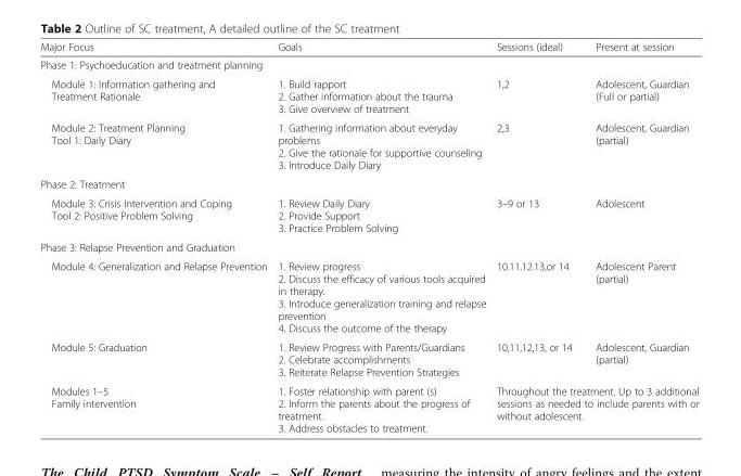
<table><thead><tr><td>Major Focus</td><td>Goals</td><td>Sessions (ideal)</td><td>Present at session</td></tr></thead><tbody><tr><td colspan="4">Phase 1: Psychoeducation and treatment planning</td></tr><tr><td>Module 1: Information gathering and Treatment Rationale</td><td>1. Build rapport 2. Gather information about the trauma 3. Give overview of treatment</td><td>1,2</td><td>Adolescent, Guardian (Full or partial)</td></tr><tr><td>Module 2: Treatment Planning Tool 1: Daily Diary</td><td>1. Gathering information about everyday problems 2. Give the rationale for supportive counseling 3. Introduce Daily Diary</td><td>2,3</td><td>Adolescent, Guardian (partial)</td></tr><tr><td colspan="4">Phase 2: Treatment</td></tr><tr><td>Module 3: Crisis Intervention and Coping Tool 2: Positive Problem Solving</td><td>1. Review Daily Diary 2. Provide Support 3. Practice Problem Solving</td><td>3–9 or 13</td><td>Adolescent</td></tr><tr><td colspan="4">Phase 3: Relapse Prevention and Graduation</td></tr><tr><td>Module 4: Generalization and Relapse Prevention</td><td>1. Review progress 2. Discuss the efficacy of various tools acquired in therapy. 3. Introduce generalization training and relapse prevention 4. Discuss the outcome of the therapy</td><td>10.11.12.13,or 14</td><td>Adolescent Parent (partial)</td></tr><tr><td>Module 5: Graduation</td><td>1. Review Progress with Parents/Guardians 2. Celebrate accomplishments 3. Reiterate Relapse Prevention Strategies</td><td>10,11,12,13, or 14</td><td>Adolescent, Guardian (partial)</td></tr><tr><td>Modules 1–5 Family intervention</td><td>1. Foster relationship with parent (s) 2. Inform the parents about the progress of treatment. 3. Address obstacles to treatment.</td><td colspan="2">Throughout the treatment. Up to 3 additional sessions as needed to include parents with or without adolescent.</td></tr></tbody></table>